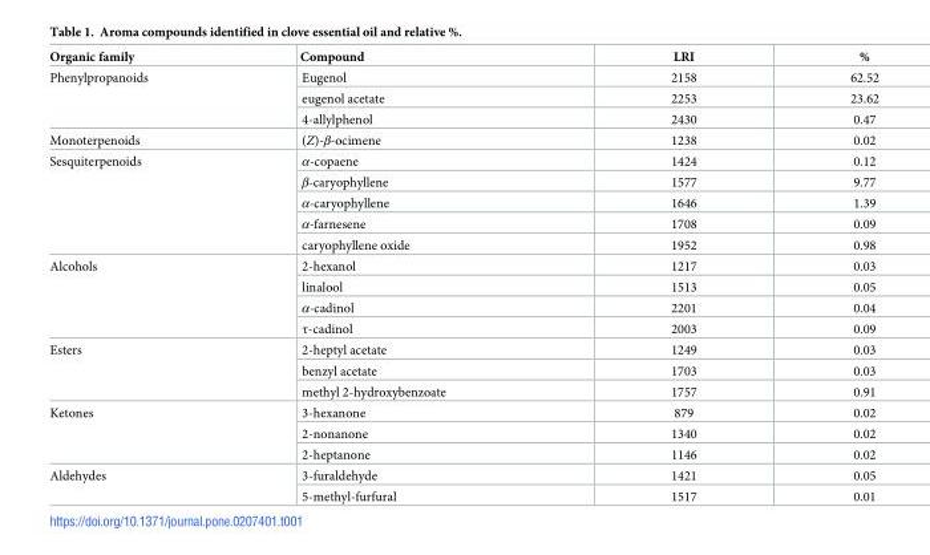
<table><thead><tr><td>Organic family</td><td>Compound</td><td>LRI</td><td>%</td></tr></thead><tbody><tr><td rowspan="3">Phenylpropanoids</td><td>Eugenol</td><td>2158</td><td>62.52</td></tr><tr><td>eugenol acetate</td><td>2253</td><td>23.62</td></tr><tr><td>4-allylphenol</td><td>2430</td><td>0.47</td></tr><tr><td>Monoterpenoids</td><td>(Z)-β-ocimene</td><td>1238</td><td>0.02</td></tr><tr><td rowspan="5">Sesquiterpenoids</td><td>α-copaene</td><td>1424</td><td>0.12</td></tr><tr><td>β-caryophyllene</td><td>1577</td><td>9.77</td></tr><tr><td>α-caryophyllene</td><td>1646</td><td>1.39</td></tr><tr><td>α-farnesene</td><td>1708</td><td>0.09</td></tr><tr><td>caryophyllene oxide</td><td>1952</td><td>0.98</td></tr><tr><td rowspan="4">Alcohols</td><td>2-hexanol</td><td>1217</td><td>0.03</td></tr><tr><td>linalool</td><td>1513</td><td>0.05</td></tr><tr><td>α-cadinol</td><td>2201</td><td>0.04</td></tr><tr><td>τ-cadinol</td><td>2003</td><td>0.09</td></tr><tr><td rowspan="3">Esters</td><td>2-heptyl acetate</td><td>1249</td><td>0.03</td></tr><tr><td>benzyl acetate</td><td>1703</td><td>0.03</td></tr><tr><td>methyl 2-hydroxybenzoate</td><td>1757</td><td>0.91</td></tr><tr><td rowspan="3">Ketones</td><td>3-hexanone</td><td>879</td><td>0.02</td></tr><tr><td>2-nonanone</td><td>1340</td><td>0.02</td></tr><tr><td>2-heptanone</td><td>1146</td><td>0.02</td></tr><tr><td rowspan="2">Aldehydes</td><td>3-furaldehyde</td><td>1421</td><td>0.05</td></tr><tr><td>5-methyl-furfural</td><td>1517</td><td>0.01</td></tr></tbody></table>